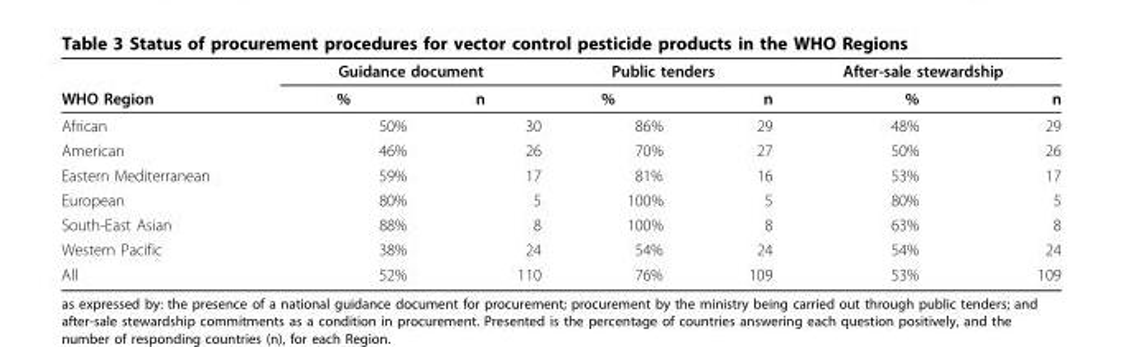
<table><thead><tr><td rowspan="2">WHO Region</td><td colspan="2">Guidance document</td><td colspan="2">Public tenders</td><td colspan="2">After-sale stewardship</td></tr><tr><td>%</td><td>n</td><td>%</td><td>n</td><td>%</td><td>n</td></tr></thead><tbody><tr><td>African</td><td>50%</td><td>30</td><td>86%</td><td>29</td><td>48%</td><td>29</td></tr><tr><td>American</td><td>46%</td><td>26</td><td>70%</td><td>27</td><td>50%</td><td>26</td></tr><tr><td>Eastern Mediterranean</td><td>59%</td><td>17</td><td>81%</td><td>16</td><td>53%</td><td>17</td></tr><tr><td>European</td><td>80%</td><td>5</td><td>100%</td><td>5</td><td>80%</td><td>5</td></tr><tr><td>South-East Asian</td><td>88%</td><td>8</td><td>100%</td><td>8</td><td>63%</td><td>8</td></tr><tr><td>Western Pacific</td><td>38%</td><td>24</td><td>54%</td><td>24</td><td>54%</td><td>24</td></tr><tr><td>All</td><td>52%</td><td>110</td><td>76%</td><td>109</td><td>53%</td><td>109</td></tr></tbody></table>